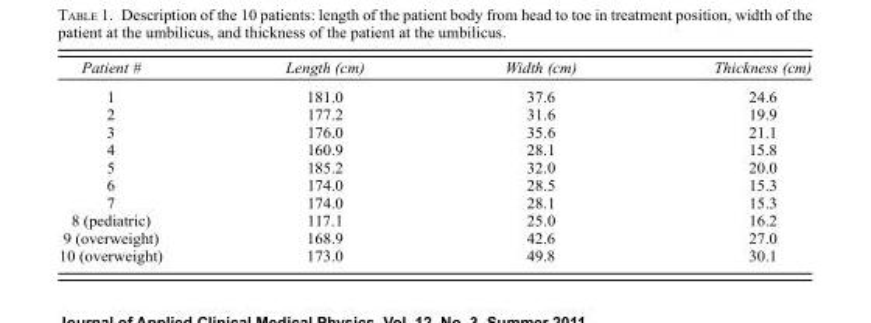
<table><thead><tr><td>Patient #</td><td>Length (cm)</td><td>Width (cm)</td><td>Thickness (cm)</td></tr></thead><tbody><tr><td>1</td><td>181.0</td><td>37.6</td><td>24.6</td></tr><tr><td>2</td><td>177.2</td><td>31.6</td><td>19.9</td></tr><tr><td>3</td><td>176.0</td><td>35.6</td><td>21.1</td></tr><tr><td>4</td><td>160.9</td><td>28.1</td><td>15.8</td></tr><tr><td>5</td><td>185.2</td><td>32.0</td><td>20.0</td></tr><tr><td>6</td><td>174.0</td><td>28.5</td><td>15.3</td></tr><tr><td>7</td><td>174.0</td><td>28.1</td><td>15.3</td></tr><tr><td>8 (pediatric)</td><td>117.1</td><td>25.0</td><td>16.2</td></tr><tr><td>9 (overweight)</td><td>168.9</td><td>42.6</td><td>27.0</td></tr><tr><td>10 (overweight)</td><td>173.0</td><td>49.8</td><td>30.1</td></tr></tbody></table>